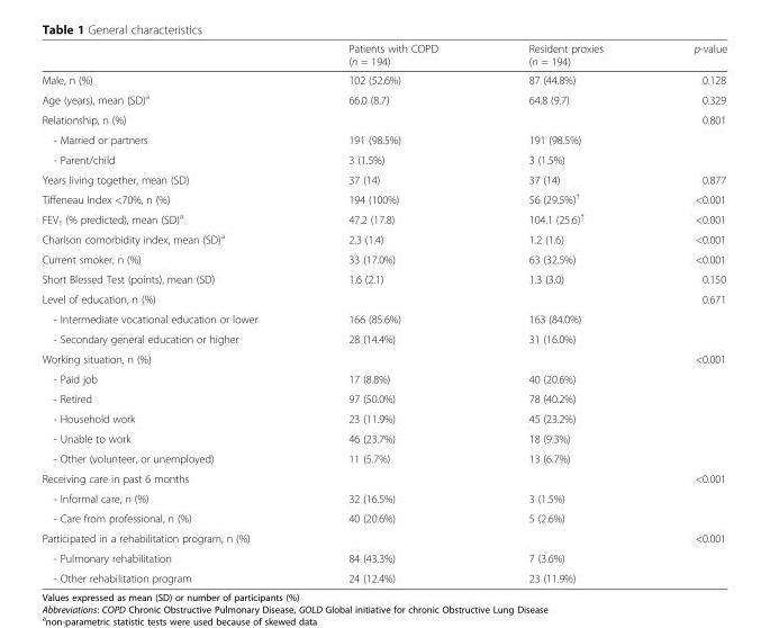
<table><thead><tr><td></td><td>Patients with COPD (n = 194)</td><td>Resident proxies (n = 194)</td><td>p-value</td></tr></thead><tbody><tr><td>Male, n (%)</td><td>102 (52.6%)</td><td>87 (44.8%)</td><td>0.128</td></tr><tr><td>Age (years), mean (SD)<sup>a</sup></td><td>66.0 (8.7)</td><td>64.8 (9.7)</td><td>0.329</td></tr><tr><td>Relationship, n (%)</td><td></td><td></td><td>0.801</td></tr><tr><td>- Married or partners</td><td>191 (98.5%)</td><td>191 (98.5%)</td><td></td></tr><tr><td>- Parent/child</td><td>3 (1.5%)</td><td>3 (1.5%)</td><td></td></tr><tr><td>Years living together, mean (SD)</td><td>37 (14)</td><td>37 (14)</td><td>0.877</td></tr><tr><td>Tiffeneau Index &lt;70%, n (%)</td><td>194 (100%)</td><td>56 (29.5%)<sup>†</sup></td><td>&lt;0.001</td></tr><tr><td>FEV<sub>1</sub> (% predicted), mean (SD)<sup>a</sup></td><td>47.2 (17.8)</td><td>104.1 (25.6)<sup>†</sup></td><td>&lt;0.001</td></tr><tr><td>Charlson comorbidity index, mean (SD)<sup>a</sup></td><td>2.3 (1.4)</td><td>1.2 (1.6)</td><td>&lt;0.001</td></tr><tr><td>Current smoker, n (%)</td><td>33 (17.0%)</td><td>63 (32.5%)</td><td>&lt;0.001</td></tr><tr><td>Short Blessed Test (points), mean (SD)</td><td>1.6 (2.1)</td><td>1.3 (3.0)</td><td>0.150</td></tr><tr><td>Level of education, n (%)</td><td></td><td></td><td>0.671</td></tr><tr><td>- Intermediate vocational education or lower</td><td>166 (85.6%)</td><td>163 (84.0%)</td><td></td></tr><tr><td>- Secondary general education or higher</td><td>28 (14.4%)</td><td>31 (16.0%)</td><td></td></tr><tr><td>Working situation, n (%)</td><td></td><td></td><td>&lt;0.001</td></tr><tr><td>- Paid job</td><td>17 (8.8%)</td><td>40 (20.6%)</td><td></td></tr><tr><td>- Retired</td><td>97 (50.0%)</td><td>78 (40.2%)</td><td></td></tr><tr><td>- Household work</td><td>23 (11.9%)</td><td>45 (23.2%)</td><td></td></tr><tr><td>- Unable to work</td><td>46 (23.7%)</td><td>18 (9.3%)</td><td></td></tr><tr><td>- Other (volunteer, or unemployed)</td><td>11 (5.7%)</td><td>13 (6.7%)</td><td></td></tr><tr><td>Receiving care in past 6 months</td><td></td><td></td><td>&lt;0.001</td></tr><tr><td>- Informal care, n (%)</td><td>32 (16.5%)</td><td>3 (1.5%)</td><td></td></tr><tr><td>- Care from professional, n (%)</td><td>40 (20.6%)</td><td>5 (2.6%)</td><td></td></tr><tr><td>Participated in a rehabilitation program, n (%)</td><td></td><td></td><td>&lt;0.001</td></tr><tr><td>- Pulmonary rehabilitation</td><td>84 (43.3%)</td><td>7 (3.6%)</td><td></td></tr><tr><td>- Other rehabilitation program</td><td>24 (12.4%)</td><td>23 (11.9%)</td><td></td></tr></tbody></table>